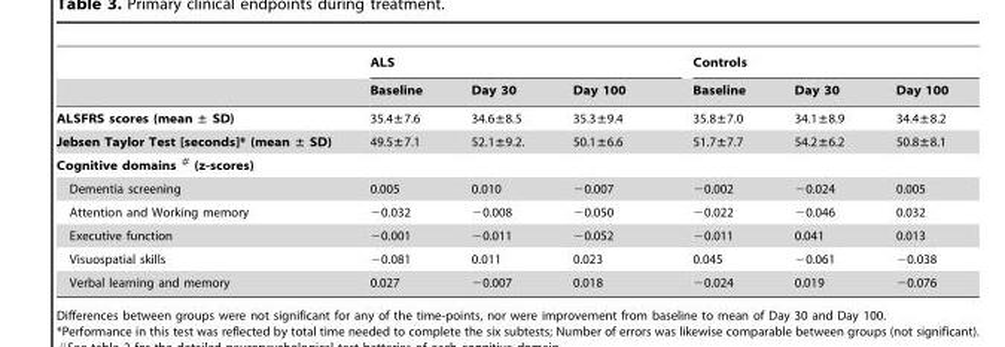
<table><thead><tr><td rowspan="2"></td><td colspan="3">ALS</td><td colspan="3">Controls</td></tr><tr><td>Baseline</td><td>Day 30</td><td>Day 100</td><td>Baseline</td><td>Day 30</td><td>Day 100</td></tr></thead><tbody><tr><td>ALSFRS scores (mean ± SD)</td><td>35.4±7.6</td><td>34.6±8.5</td><td>35.3±9.4</td><td>35.8±7.0</td><td>34.1±8.9</td><td>34.4±8.2</td></tr><tr><td>Jebsen Taylor Test [seconds]* (mean ± SD)</td><td>49.5±7.1</td><td>52.1±9.2.</td><td>50.1±6.6</td><td>51.7±7.7</td><td>54.2±6.2</td><td>50.8±8.1</td></tr><tr><td colspan="7">Cognitive domains # (z-scores)</td></tr><tr><td>Dementia screening</td><td>0.005</td><td>0.010</td><td>−0.007</td><td>−0.002</td><td>−0.024</td><td>0.005</td></tr><tr><td>Attention and Working memory</td><td>−0.032</td><td>−0.008</td><td>−0.050</td><td>−0.022</td><td>−0.046</td><td>0.032</td></tr><tr><td>Executive function</td><td>−0.001</td><td>−0.011</td><td>−0.052</td><td>−0.011</td><td>0.041</td><td>0.013</td></tr><tr><td>Visuospatial skills</td><td>−0.081</td><td>0.011</td><td>0.023</td><td>0.045</td><td>−0.061</td><td>−0.038</td></tr><tr><td>Verbal learning and memory</td><td>0.027</td><td>−0.007</td><td>0.018</td><td>−0.024</td><td>0.019</td><td>−0.076</td></tr></tbody></table>